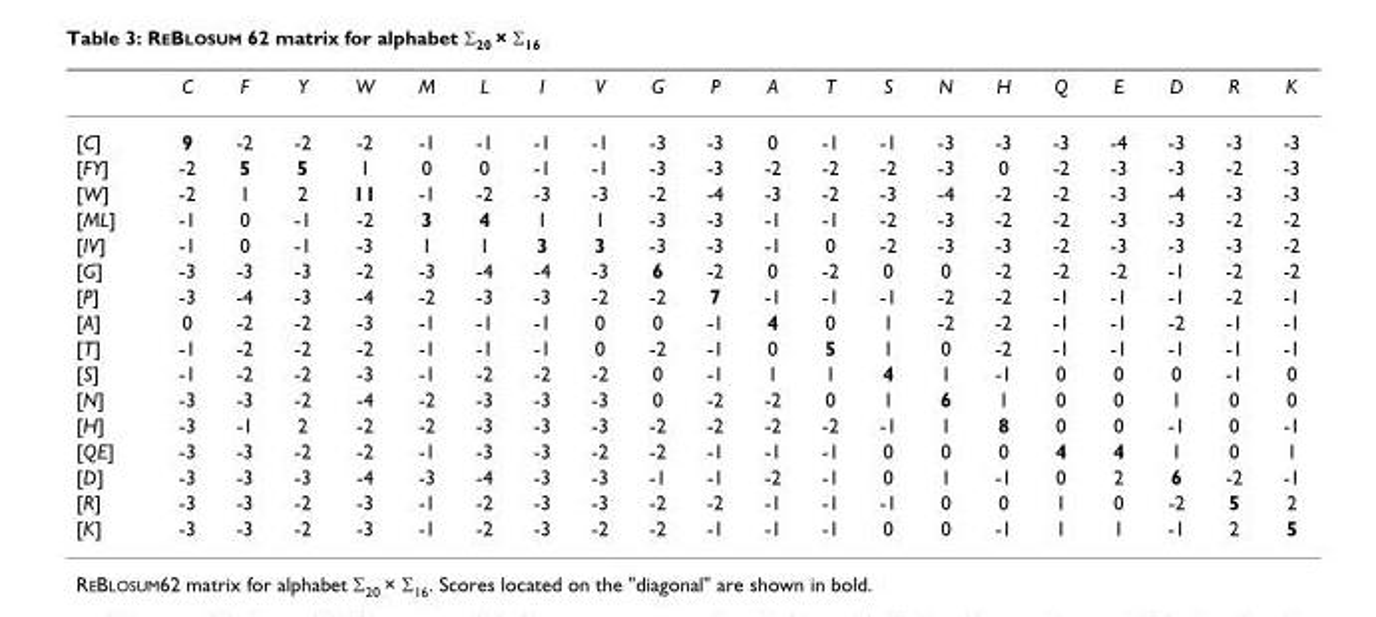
<table><thead><tr><td></td><td>C</td><td>F</td><td>Y</td><td>W</td><td>M</td><td>L</td><td>I</td><td>V</td><td>G</td><td>P</td><td>A</td><td>T</td><td>S</td><td>N</td><td>H</td><td>Q</td><td>E</td><td>D</td><td>R</td><td>K</td></tr></thead><tbody><tr><td>[C]</td><td>9</td><td>-2</td><td>-2</td><td>-2</td><td>-1</td><td>-1</td><td>-1</td><td>-1</td><td>-3</td><td>-3</td><td>0</td><td>-1</td><td>-1</td><td>-3</td><td>-3</td><td>-3</td><td>-4</td><td>-3</td><td>-3</td><td>-3</td></tr><tr><td>[FY]</td><td>-2</td><td>5</td><td>5</td><td>1</td><td>0</td><td>0</td><td>-1</td><td>-1</td><td>-3</td><td>-3</td><td>-2</td><td>-2</td><td>-2</td><td>-3</td><td>0</td><td>-2</td><td>-3</td><td>-3</td><td>-2</td><td>-3</td></tr><tr><td>[W]</td><td>-2</td><td>1</td><td>2</td><td>11</td><td>-1</td><td>-2</td><td>-3</td><td>-3</td><td>-2</td><td>-4</td><td>-3</td><td>-2</td><td>-3</td><td>-4</td><td>-2</td><td>-2</td><td>-3</td><td>-4</td><td>-3</td><td>-3</td></tr><tr><td>[ML]</td><td>-1</td><td>0</td><td>-1</td><td>-2</td><td>3</td><td>4</td><td>1</td><td>1</td><td>-3</td><td>-3</td><td>-1</td><td>-1</td><td>-2</td><td>-3</td><td>-2</td><td>-2</td><td>-3</td><td>-3</td><td>-2</td><td>-2</td></tr><tr><td>[IV]</td><td>-1</td><td>0</td><td>-1</td><td>-3</td><td>1</td><td>1</td><td>3</td><td>3</td><td>-3</td><td>-3</td><td>-1</td><td>0</td><td>-2</td><td>-3</td><td>-3</td><td>-2</td><td>-3</td><td>-3</td><td>-3</td><td>-2</td></tr><tr><td>[G]</td><td>-3</td><td>-3</td><td>-3</td><td>-2</td><td>-3</td><td>-4</td><td>-4</td><td>-3</td><td>6</td><td>-2</td><td>0</td><td>-2</td><td>0</td><td>0</td><td>-2</td><td>-2</td><td>-2</td><td>-1</td><td>-2</td><td>-2</td></tr><tr><td>[P]</td><td>-3</td><td>-4</td><td>-3</td><td>-4</td><td>-2</td><td>-3</td><td>-3</td><td>-2</td><td>-2</td><td>7</td><td>-1</td><td>-1</td><td>-1</td><td>-2</td><td>-2</td><td>-1</td><td>-1</td><td>-1</td><td>-2</td><td>-1</td></tr><tr><td>[A]</td><td>0</td><td>-2</td><td>-2</td><td>-3</td><td>-1</td><td>-1</td><td>-1</td><td>0</td><td>0</td><td>-1</td><td>4</td><td>0</td><td>1</td><td>-2</td><td>-2</td><td>-1</td><td>-1</td><td>-2</td><td>-1</td><td>-1</td></tr><tr><td>[T]</td><td>-1</td><td>-2</td><td>-2</td><td>-2</td><td>-1</td><td>-1</td><td>-1</td><td>0</td><td>-2</td><td>-1</td><td>0</td><td>5</td><td>1</td><td>0</td><td>-2</td><td>-1</td><td>-1</td><td>-1</td><td>-1</td><td>-1</td></tr><tr><td>[S]</td><td>-1</td><td>-2</td><td>-2</td><td>-3</td><td>-1</td><td>-2</td><td>-2</td><td>-2</td><td>0</td><td>-1</td><td>1</td><td>1</td><td>4</td><td>1</td><td>-1</td><td>0</td><td>0</td><td>0</td><td>-1</td><td>0</td></tr><tr><td>[N]</td><td>-3</td><td>-3</td><td>-2</td><td>-4</td><td>-2</td><td>-3</td><td>-3</td><td>-3</td><td>0</td><td>-2</td><td>-2</td><td>0</td><td>1</td><td>6</td><td>1</td><td>0</td><td>0</td><td>1</td><td>0</td><td>0</td></tr><tr><td>[H]</td><td>-3</td><td>-1</td><td>2</td><td>-2</td><td>-2</td><td>-3</td><td>-3</td><td>-3</td><td>-2</td><td>-2</td><td>-2</td><td>-2</td><td>-1</td><td>1</td><td>8</td><td>0</td><td>0</td><td>-1</td><td>0</td><td>-1</td></tr><tr><td>[QE]</td><td>-3</td><td>-3</td><td>-2</td><td>-2</td><td>-1</td><td>-3</td><td>-3</td><td>-2</td><td>-2</td><td>-1</td><td>-1</td><td>-1</td><td>0</td><td>0</td><td>0</td><td>4</td><td>4</td><td>1</td><td>0</td><td>1</td></tr><tr><td>[D]</td><td>-3</td><td>-3</td><td>-3</td><td>-4</td><td>-3</td><td>-4</td><td>-3</td><td>-3</td><td>-1</td><td>-1</td><td>-2</td><td>-1</td><td>0</td><td>1</td><td>-1</td><td>0</td><td>2</td><td>6</td><td>-2</td><td>-1</td></tr><tr><td>[R]</td><td>-3</td><td>-3</td><td>-2</td><td>-3</td><td>-1</td><td>-2</td><td>-3</td><td>-3</td><td>-2</td><td>-2</td><td>-1</td><td>-1</td><td>-1</td><td>0</td><td>0</td><td>1</td><td>0</td><td>-2</td><td>5</td><td>2</td></tr><tr><td>[K]</td><td>-3</td><td>-3</td><td>-2</td><td>-3</td><td>-1</td><td>-2</td><td>-3</td><td>-2</td><td>-2</td><td>-1</td><td>-1</td><td>-1</td><td>0</td><td>0</td><td>-1</td><td>1</td><td>1</td><td>-1</td><td>2</td><td>5</td></tr></tbody></table>